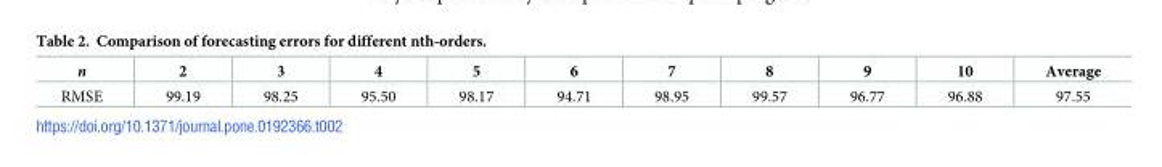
<table><thead><tr><td>n</td><td>2</td><td>3</td><td>4</td><td>5</td><td>6</td><td>7</td><td>8</td><td>9</td><td>10</td><td>Average</td></tr></thead><tbody><tr><td>RMSE</td><td>99.19</td><td>98.25</td><td>95.50</td><td>98.17</td><td>94.71</td><td>98.95</td><td>99.57</td><td>96.77</td><td>96.88</td><td>97.55</td></tr></tbody></table>